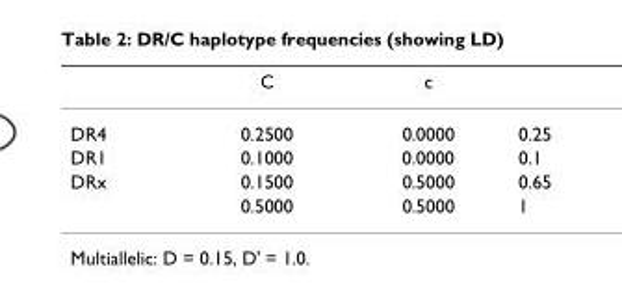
<table><thead><tr><td></td><td>C</td><td>c</td><td></td></tr></thead><tbody><tr><td>DR4</td><td>0.2500</td><td>0.0000</td><td>0.25</td></tr><tr><td>DR1</td><td>0.1000</td><td>0.0000</td><td>0.1</td></tr><tr><td rowspan="2">DRx</td><td>0.1500</td><td>0.5000</td><td>0.65</td></tr><tr><td>0.5000</td><td>0.5000</td><td>1</td></tr></tbody></table>